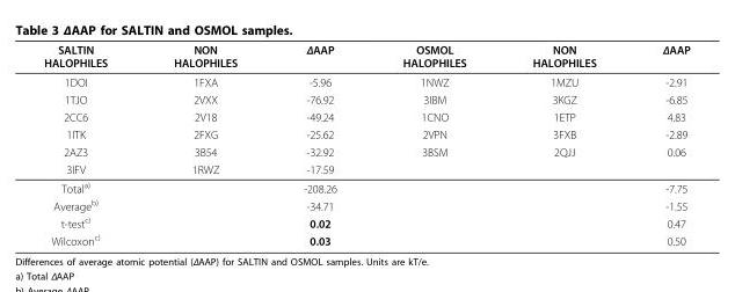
<table><thead><tr><td>SALTIN HALOPHILES</td><td>NON HALOPHILES</td><td>ΔAAP</td><td>OSMOL HALOPHILES</td><td>NON HALOPHILES</td><td>ΔAAP</td></tr></thead><tbody><tr><td>1DOI</td><td>1FXA</td><td>-5.96</td><td>1NWZ</td><td>1MZU</td><td>-2.91</td></tr><tr><td>1TJO</td><td>2VXX</td><td>-76.92</td><td>3IBM</td><td>3KGZ</td><td>-6.85</td></tr><tr><td>2CC6</td><td>2V18</td><td>-49.24</td><td>1CNO</td><td>1ETP</td><td>4.83</td></tr><tr><td>1ITK</td><td>2FXG</td><td>-25.62</td><td>2VPN</td><td>3FXB</td><td>-2.89</td></tr><tr><td>2AZ3</td><td>3B54</td><td>-32.92</td><td>3BSM</td><td>2QJJ</td><td>0.06</td></tr><tr><td>3IFV</td><td>1RWZ</td><td>-17.59</td><td></td><td></td><td></td></tr><tr><td>Total<sup>a)</sup></td><td></td><td>-208.26</td><td></td><td></td><td>-7.75</td></tr><tr><td>Average<sup>b)</sup></td><td></td><td>-34.71</td><td></td><td></td><td>-1.55</td></tr><tr><td>t-test<sup>c)</sup></td><td></td><td>0.02</td><td></td><td></td><td>0.47</td></tr><tr><td>Wilcoxon<sup>c)</sup></td><td></td><td>0.03</td><td></td><td></td><td>0.50</td></tr></tbody></table>